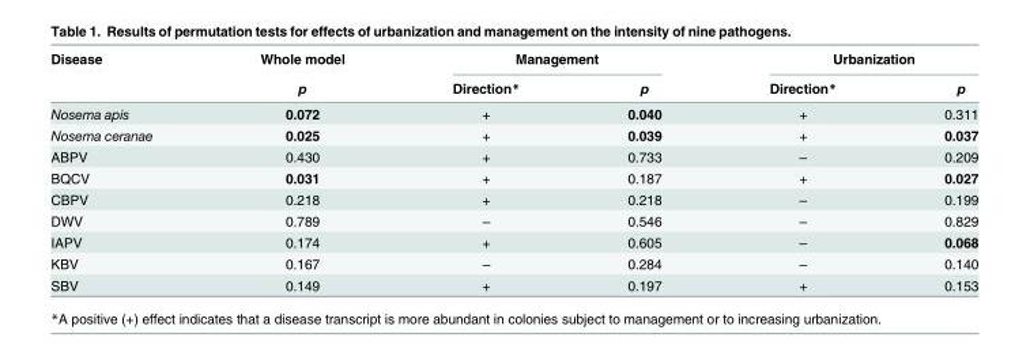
<table><thead><tr><td rowspan="2">Disease</td><td rowspan="2">Whole model p</td><td colspan="2">Management</td><td colspan="2">Urbanization</td></tr><tr><td>Direction*</td><td>p</td><td>Direction*</td><td>p</td></tr></thead><tbody><tr><td>Nosema apis</td><td>0.072</td><td>+</td><td>0.040</td><td>+</td><td>0.311</td></tr><tr><td>Nosema ceranae</td><td>0.025</td><td>+</td><td>0.039</td><td>+</td><td>0.037</td></tr><tr><td>ABPV</td><td>0.430</td><td>+</td><td>0.733</td><td>–</td><td>0.209</td></tr><tr><td>BQCV</td><td>0.031</td><td>+</td><td>0.187</td><td>+</td><td>0.027</td></tr><tr><td>CBPV</td><td>0.218</td><td>+</td><td>0.218</td><td>–</td><td>0.199</td></tr><tr><td>DWV</td><td>0.789</td><td>–</td><td>0.546</td><td>–</td><td>0.829</td></tr><tr><td>IAPV</td><td>0.174</td><td>+</td><td>0.605</td><td>–</td><td>0.068</td></tr><tr><td>KBV</td><td>0.167</td><td>–</td><td>0.284</td><td>–</td><td>0.140</td></tr><tr><td>SBV</td><td>0.149</td><td>+</td><td>0.197</td><td>+</td><td>0.153</td></tr></tbody></table>